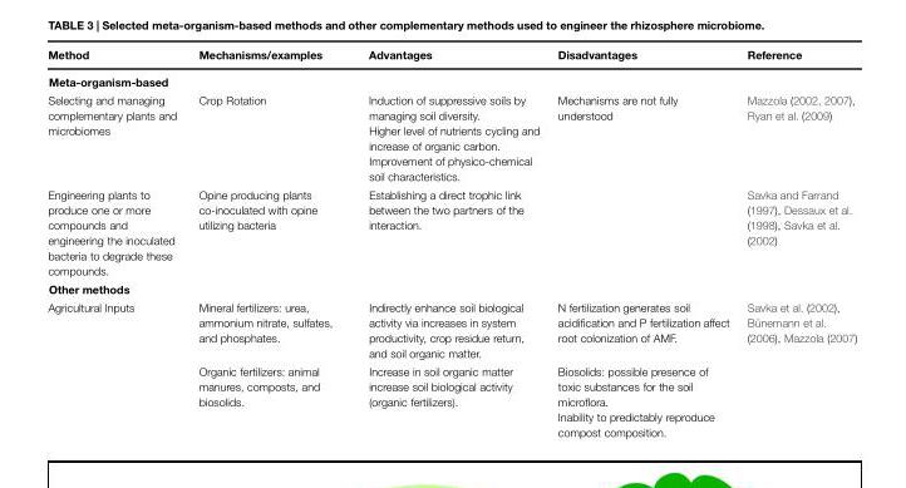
<table><thead><tr><td>Method</td><td>Mechanisms/examples</td><td>Advantages</td><td>Disadvantages</td><td>Reference</td></tr></thead><tbody><tr><td colspan="5">Meta-organism-based</td></tr><tr><td>Selecting and managing complementary plants and microbiomes</td><td>Crop Rotation</td><td>Induction of suppressive soils by managing soil diversity. Higher level of nutrients cycling and increase of organic carbon. Improvement of physico-chemical soil characteristics.</td><td>Mechanisms are not fully understood</td><td>Mazzola (2002, 2007), Ryan et al. (2009)</td></tr><tr><td>Engineering plants to produce one or more compounds and engineering the inoculated bacteria to degrade these compounds.</td><td>Opine producing plants co-inoculated with opine utilizing bacteria</td><td>Establishing a direct trophic link between the two partners of the interaction.</td><td></td><td>Savka and Farrand (1997), Dessaux et al. (1998), Savka et al. (2002)</td></tr><tr><td colspan="5">Other methods</td></tr><tr><td rowspan="2">Agricultural Inputs</td><td>Mineral fertilizers: urea, ammonium nitrate, sulfates, and phosphates.</td><td>Indirectly enhance soil biological activity via increases in system productivity, crop residue return, and soil organic matter.</td><td>N fertilization generates soil acidification and P fertilization affect root colonization of AMF.</td><td>Savka et al. (2002), Bünemann et al. (2006), Mazzola (2007)</td></tr><tr><td>Organic fertilizers: animal manures, composts, and biosolids.</td><td>Increase in soil organic matter increase soil biological activity (organic fertilizers).</td><td>Biosolids: possible presence of toxic substances for the soil microflora. Inability to predictably reproduce compost composition.</td><td></td></tr></tbody></table>